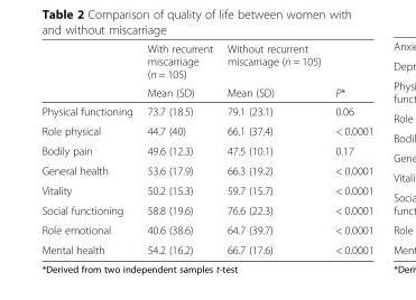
<table><thead><tr><td rowspan="2"></td><td rowspan="2">With recurrent miscarriage (n = 105) Mean (SD)</td><td rowspan="2">Without recurrent miscarriage (n = 105) Mean (SD)</td><td rowspan="2">P*</td></tr><tr></tr></thead><tbody><tr><td>Physical functioning</td><td>73.7 (18.5)</td><td>79.1 (23.1)</td><td>0.06</td></tr><tr><td>Role physical</td><td>44.7 (40)</td><td>66.1 (37.4)</td><td>&lt; 0.0001</td></tr><tr><td>Bodily pain</td><td>49.6 (12.3)</td><td>47.5 (10.1)</td><td>0.17</td></tr><tr><td>General health</td><td>53.6 (17.9)</td><td>66.3 (19.2)</td><td>&lt; 0.0001</td></tr><tr><td>Vitality</td><td>50.2 (15.3)</td><td>59.7 (15.7)</td><td>&lt; 0.0001</td></tr><tr><td>Social functioning</td><td>58.8 (19.6)</td><td>76.6 (22.3)</td><td>&lt; 0.0001</td></tr><tr><td>Role emotional</td><td>40.6 (38.6)</td><td>64.7 (39.7)</td><td>&lt; 0.0001</td></tr><tr><td>Mental health</td><td>54.2 (16.2)</td><td>66.7 (17.6)</td><td>&lt; 0.0001</td></tr></tbody></table>